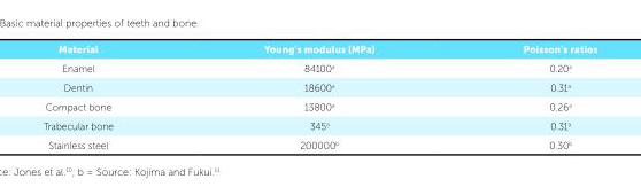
<table><thead><tr><td>Material</td><td>Young’s modulus (MPa)</td><td>Poisson’s ratios</td></tr></thead><tbody><tr><td>Enamel</td><td>84100<sup>a</sup></td><td>0.20<sup>a</sup></td></tr><tr><td>Dentin</td><td>18600<sup>a</sup></td><td>0.31<sup>a</sup></td></tr><tr><td>Compact bone</td><td>13800<sup>a</sup></td><td>0.26<sup>a</sup></td></tr><tr><td>Trabecular bone</td><td>345<sup>a</sup></td><td>0.31<sup>a</sup></td></tr><tr><td>Stainless steel</td><td>200000<sup>b</sup></td><td>0.30<sup>b</sup></td></tr></tbody></table>